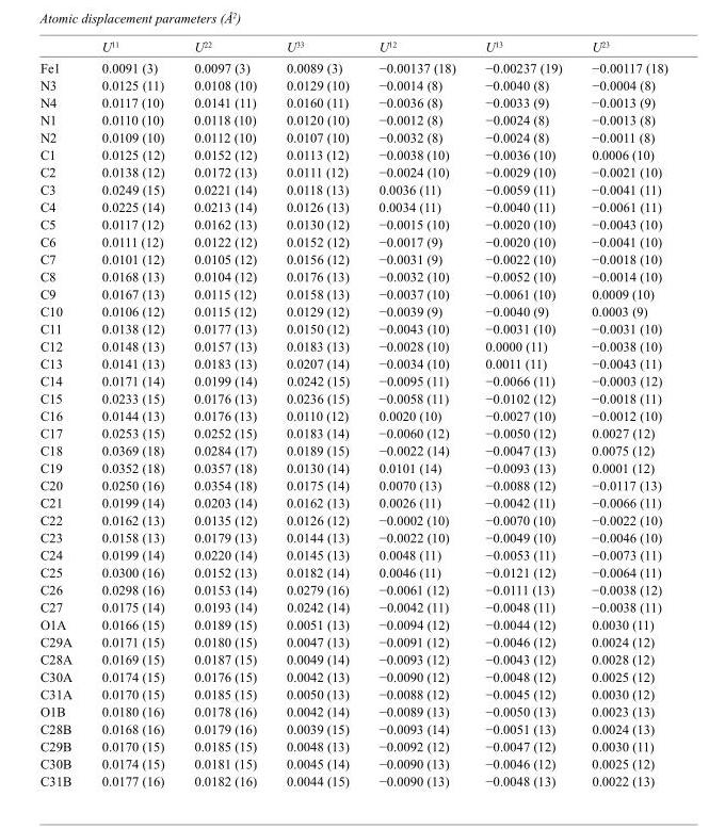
<table><thead><tr><td></td><td>U<sup>11</sup></td><td>U<sup>22</sup></td><td>U<sup>33</sup></td><td>U<sup>12</sup></td><td>U<sup>13</sup></td><td>U<sup>23</sup></td></tr></thead><tbody><tr><td>Fe1</td><td>0.0091 (3)</td><td>0.0097 (3)</td><td>0.0089 (3)</td><td>−0.00137 (18)</td><td>−0.00237 (19)</td><td>−0.00117 (18)</td></tr><tr><td>N3</td><td>0.0125 (11)</td><td>0.0108 (10)</td><td>0.0129 (10)</td><td>−0.0014 (8)</td><td>−0.0040 (8)</td><td>−0.0004 (8)</td></tr><tr><td>N4</td><td>0.0117 (10)</td><td>0.0141 (11)</td><td>0.0160 (11)</td><td>−0.0036 (8)</td><td>−0.0033 (9)</td><td>−0.0013 (9)</td></tr><tr><td>N1</td><td>0.0110 (10)</td><td>0.0118 (10)</td><td>0.0120 (10)</td><td>−0.0012 (8)</td><td>−0.0024 (8)</td><td>−0.0013 (8)</td></tr><tr><td>N2</td><td>0.0109 (10)</td><td>0.0112 (10)</td><td>0.0107 (10)</td><td>−0.0032 (8)</td><td>−0.0024 (8)</td><td>−0.0011 (8)</td></tr><tr><td>C1</td><td>0.0125 (12)</td><td>0.0152 (12)</td><td>0.0113 (12)</td><td>−0.0038 (10)</td><td>−0.0036 (10)</td><td>0.0006 (10)</td></tr><tr><td>C2</td><td>0.0138 (12)</td><td>0.0172 (13)</td><td>0.0111 (12)</td><td>−0.0024 (10)</td><td>−0.0029 (10)</td><td>−0.0021 (10)</td></tr><tr><td>C3</td><td>0.0249 (15)</td><td>0.0221 (14)</td><td>0.0118 (13)</td><td>0.0036 (11)</td><td>−0.0059 (11)</td><td>−0.0041 (11)</td></tr><tr><td>C4</td><td>0.0225 (14)</td><td>0.0213 (14)</td><td>0.0126 (13)</td><td>0.0034 (11)</td><td>−0.0040 (11)</td><td>−0.0061 (11)</td></tr><tr><td>C5</td><td>0.0117 (12)</td><td>0.0162 (13)</td><td>0.0130 (12)</td><td>−0.0015 (10)</td><td>−0.0020 (10)</td><td>−0.0043 (10)</td></tr><tr><td>C6</td><td>0.0111 (12)</td><td>0.0122 (12)</td><td>0.0152 (12)</td><td>−0.0017 (9)</td><td>−0.0020 (10)</td><td>−0.0041 (10)</td></tr><tr><td>C7</td><td>0.0101 (12)</td><td>0.0105 (12)</td><td>0.0156 (12)</td><td>−0.0031 (9)</td><td>−0.0022 (10)</td><td>−0.0018 (10)</td></tr><tr><td>C8</td><td>0.0168 (13)</td><td>0.0104 (12)</td><td>0.0176 (13)</td><td>−0.0032 (10)</td><td>−0.0052 (10)</td><td>−0.0014 (10)</td></tr><tr><td>C9</td><td>0.0167 (13)</td><td>0.0115 (12)</td><td>0.0158 (13)</td><td>−0.0037 (10)</td><td>−0.0061 (10)</td><td>0.0009 (10)</td></tr><tr><td>C10</td><td>0.0106 (12)</td><td>0.0115 (12)</td><td>0.0129 (12)</td><td>−0.0039 (9)</td><td>−0.0040 (9)</td><td>0.0003 (9)</td></tr><tr><td>C11</td><td>0.0138 (12)</td><td>0.0177 (13)</td><td>0.0150 (12)</td><td>−0.0043 (10)</td><td>−0.0031 (10)</td><td>−0.0031 (10)</td></tr><tr><td>C12</td><td>0.0148 (13)</td><td>0.0157 (13)</td><td>0.0183 (13)</td><td>−0.0028 (10)</td><td>0.0000 (11)</td><td>−0.0038 (10)</td></tr><tr><td>C13</td><td>0.0141 (13)</td><td>0.0183 (13)</td><td>0.0207 (14)</td><td>−0.0034 (10)</td><td>0.0011 (11)</td><td>−0.0043 (11)</td></tr><tr><td>C14</td><td>0.0171 (14)</td><td>0.0199 (14)</td><td>0.0242 (15)</td><td>−0.0095 (11)</td><td>−0.0066 (11)</td><td>−0.0003 (12)</td></tr><tr><td>C15</td><td>0.0233 (15)</td><td>0.0176 (13)</td><td>0.0236 (15)</td><td>−0.0058 (11)</td><td>−0.0102 (12)</td><td>−0.0018 (11)</td></tr><tr><td>C16</td><td>0.0144 (13)</td><td>0.0176 (13)</td><td>0.0110 (12)</td><td>0.0020 (10)</td><td>−0.0027 (10)</td><td>−0.0012 (10)</td></tr><tr><td>C17</td><td>0.0253 (15)</td><td>0.0252 (15)</td><td>0.0183 (14)</td><td>−0.0060 (12)</td><td>−0.0050 (12)</td><td>0.0027 (12)</td></tr><tr><td>C18</td><td>0.0369 (18)</td><td>0.0284 (17)</td><td>0.0189 (15)</td><td>−0.0022 (14)</td><td>−0.0047 (13)</td><td>0.0075 (12)</td></tr><tr><td>C19</td><td>0.0352 (18)</td><td>0.0357 (18)</td><td>0.0130 (14)</td><td>0.0101 (14)</td><td>−0.0093 (13)</td><td>0.0001 (12)</td></tr><tr><td>C20</td><td>0.0250 (16)</td><td>0.0354 (18)</td><td>0.0175 (14)</td><td>0.0070 (13)</td><td>−0.0088 (12)</td><td>−0.0117 (13)</td></tr><tr><td>C21</td><td>0.0199 (14)</td><td>0.0203 (14)</td><td>0.0162 (13)</td><td>0.0026 (11)</td><td>−0.0042 (11)</td><td>−0.0066 (11)</td></tr><tr><td>C22</td><td>0.0162 (13)</td><td>0.0135 (12)</td><td>0.0126 (12)</td><td>−0.0002 (10)</td><td>−0.0070 (10)</td><td>−0.0022 (10)</td></tr><tr><td>C23</td><td>0.0158 (13)</td><td>0.0179 (13)</td><td>0.0144 (13)</td><td>−0.0022 (10)</td><td>−0.0049 (10)</td><td>−0.0046 (10)</td></tr><tr><td>C24</td><td>0.0199 (14)</td><td>0.0220 (14)</td><td>0.0145 (13)</td><td>0.0048 (11)</td><td>−0.0053 (11)</td><td>−0.0073 (11)</td></tr><tr><td>C25</td><td>0.0300 (16)</td><td>0.0152 (13)</td><td>0.0182 (14)</td><td>0.0046 (11)</td><td>−0.0121 (12)</td><td>−0.0064 (11)</td></tr><tr><td>C26</td><td>0.0298 (16)</td><td>0.0153 (14)</td><td>0.0279 (16)</td><td>−0.0061 (12)</td><td>−0.0111 (13)</td><td>−0.0038 (12)</td></tr><tr><td>C27</td><td>0.0175 (14)</td><td>0.0193 (14)</td><td>0.0242 (14)</td><td>−0.0042 (11)</td><td>−0.0048 (11)</td><td>−0.0038 (11)</td></tr><tr><td>O1A</td><td>0.0166 (15)</td><td>0.0189 (15)</td><td>0.0051 (13)</td><td>−0.0094 (12)</td><td>−0.0044 (12)</td><td>0.0030 (11)</td></tr><tr><td>C29A</td><td>0.0171 (15)</td><td>0.0180 (15)</td><td>0.0047 (13)</td><td>−0.0091 (12)</td><td>−0.0046 (12)</td><td>0.0024 (12)</td></tr><tr><td>C28A</td><td>0.0169 (15)</td><td>0.0187 (15)</td><td>0.0049 (14)</td><td>−0.0093 (12)</td><td>−0.0043 (12)</td><td>0.0028 (12)</td></tr><tr><td>C30A</td><td>0.0174 (15)</td><td>0.0176 (15)</td><td>0.0042 (13)</td><td>−0.0090 (12)</td><td>−0.0048 (12)</td><td>0.0025 (12)</td></tr><tr><td>C31A</td><td>0.0170 (15)</td><td>0.0185 (15)</td><td>0.0050 (13)</td><td>−0.0088 (12)</td><td>−0.0045 (12)</td><td>0.0030 (12)</td></tr><tr><td>O1B</td><td>0.0180 (16)</td><td>0.0178 (16)</td><td>0.0042 (14)</td><td>−0.0089 (13)</td><td>−0.0050 (13)</td><td>0.0023 (13)</td></tr><tr><td>C28B</td><td>0.0168 (16)</td><td>0.0179 (16)</td><td>0.0039 (15)</td><td>−0.0093 (14)</td><td>−0.0051 (13)</td><td>0.0024 (13)</td></tr><tr><td>C29B</td><td>0.0170 (15)</td><td>0.0185 (15)</td><td>0.0048 (13)</td><td>−0.0092 (12)</td><td>−0.0047 (12)</td><td>0.0030 (11)</td></tr><tr><td>C30B</td><td>0.0174 (15)</td><td>0.0181 (15)</td><td>0.0045 (14)</td><td>−0.0090 (13)</td><td>−0.0046 (12)</td><td>0.0025 (12)</td></tr><tr><td>C31B</td><td>0.0177 (16)</td><td>0.0182 (16)</td><td>0.0044 (15)</td><td>−0.0090 (13)</td><td>−0.0048 (13)</td><td>0.0022 (13)</td></tr></tbody></table>